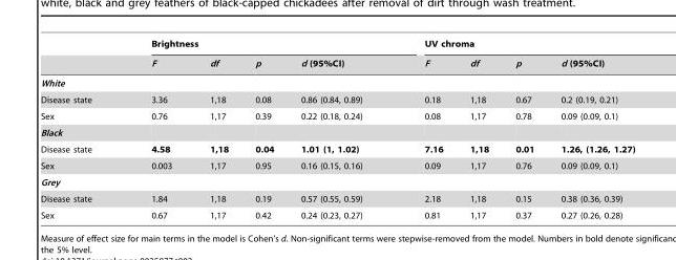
<table><thead><tr><td rowspan="2"></td><td colspan="4">Brightness</td><td colspan="4">UV chroma</td></tr><tr><td>F</td><td>df</td><td>p</td><td>d (95%CI)</td><td>F</td><td>df</td><td>p</td><td>d (95%CI)</td></tr></thead><tbody><tr><td colspan="9">White</td></tr><tr><td>Disease state</td><td>3.36</td><td>1,18</td><td>0.08</td><td>0.86 (0.84, 0.89)</td><td>0.18</td><td>1,18</td><td>0.67</td><td>0.2 (0.19, 0.21)</td></tr><tr><td>Sex</td><td>0.76</td><td>1,17</td><td>0.39</td><td>0.22 (0.18, 0.24)</td><td>0.08</td><td>1,17</td><td>0.78</td><td>0.09 (0.09, 0.1)</td></tr><tr><td colspan="9">Black</td></tr><tr><td>Disease state</td><td>4.58</td><td>1,18</td><td>0.04</td><td>1.01 (1, 1.02)</td><td>7.16</td><td>1,18</td><td>0.01</td><td>1.26, (1.26, 1.27)</td></tr><tr><td>Sex</td><td>0.003</td><td>1,17</td><td>0.95</td><td>0.16 (0.15, 0.16)</td><td>0.09</td><td>1,17</td><td>0.76</td><td>0.09 (0.09, 0.1)</td></tr><tr><td colspan="9">Grey</td></tr><tr><td>Disease state</td><td>1.84</td><td>1,18</td><td>0.19</td><td>0.57 (0.55, 0.59)</td><td>2.18</td><td>1,18</td><td>0.15</td><td>0.38 (0.36, 0.39)</td></tr><tr><td>Sex</td><td>0.67</td><td>1,17</td><td>0.42</td><td>0.24 (0.23, 0.27)</td><td>0.81</td><td>1,17</td><td>0.37</td><td>0.27 (0.26, 0.28)</td></tr></tbody></table>